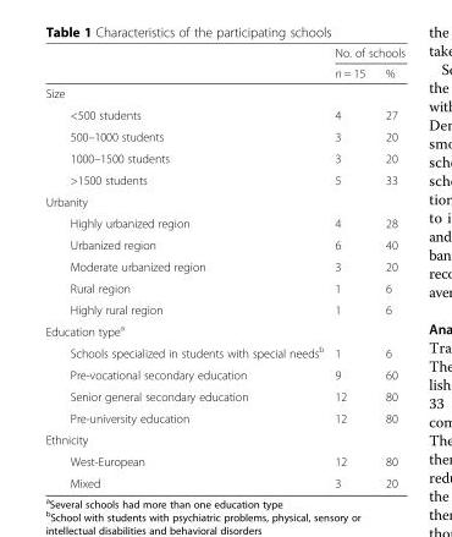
<table><thead><tr><td rowspan="2"></td><td colspan="2">No. of schools</td></tr><tr><td>n = 15</td><td>%</td></tr></thead><tbody><tr><td colspan="3">Size</td></tr><tr><td>&lt;500 students</td><td>4</td><td>27</td></tr><tr><td>500–1000 students</td><td>3</td><td>20</td></tr><tr><td>1000–1500 students</td><td>3</td><td>20</td></tr><tr><td>&gt;1500 students</td><td>5</td><td>33</td></tr><tr><td colspan="3">Urbanity</td></tr><tr><td>Highly urbanized region</td><td>4</td><td>28</td></tr><tr><td>Urbanized region</td><td>6</td><td>40</td></tr><tr><td>Moderate urbanized region</td><td>3</td><td>20</td></tr><tr><td>Rural region</td><td>1</td><td>6</td></tr><tr><td>Highly rural region</td><td>1</td><td>6</td></tr><tr><td colspan="3">Education type<sup>a</sup></td></tr><tr><td>Schools specialized in students with special needs<sup>b</sup></td><td>1</td><td>6</td></tr><tr><td>Pre-vocational secondary education</td><td>9</td><td>60</td></tr><tr><td>Senior general secondary education</td><td>12</td><td>80</td></tr><tr><td>Pre-university education</td><td>12</td><td>80</td></tr><tr><td colspan="3">Ethnicity</td></tr><tr><td>West-European</td><td>12</td><td>80</td></tr><tr><td>Mixed</td><td>3</td><td>20</td></tr></tbody></table>